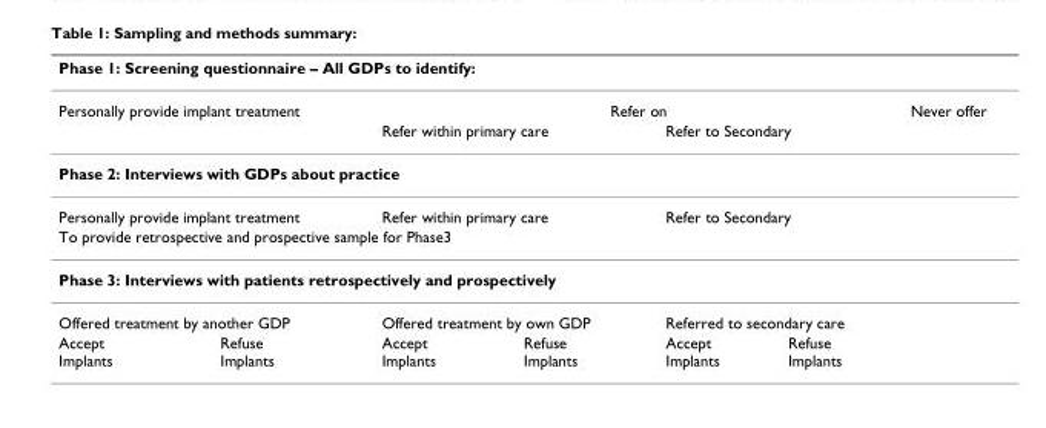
<table><thead><tr><td colspan="7">Phase 1: Screening questionnaire – All GDPs to identify:</td></tr></thead><tbody><tr><td colspan="2">Personally provide implant treatment</td><td colspan="4">Refer on</td><td>Never offer</td></tr><tr><td></td><td></td><td colspan="2">Refer within primary care</td><td colspan="2">Refer to Secondary</td><td></td></tr><tr><td colspan="7">Phase 2: Interviews with GDPs about practice</td></tr><tr><td colspan="2">Personally provide implant treatment</td><td colspan="2">Refer within primary care</td><td colspan="2">Refer to Secondary</td><td></td></tr><tr><td colspan="7">To provide retrospective and prospective sample for Phase3</td></tr><tr><td colspan="7">Phase 3: Interviews with patients retrospectively and prospectively</td></tr><tr><td colspan="2">Offered treatment by another GDP</td><td colspan="2">Offered treatment by own GDP</td><td colspan="2">Referred to secondary care</td><td></td></tr><tr><td>Accept Implants</td><td>Refuse Implants</td><td>Accept Implants</td><td>Refuse Implants</td><td>Accept Implants</td><td>Refuse Implants</td><td></td></tr></tbody></table>